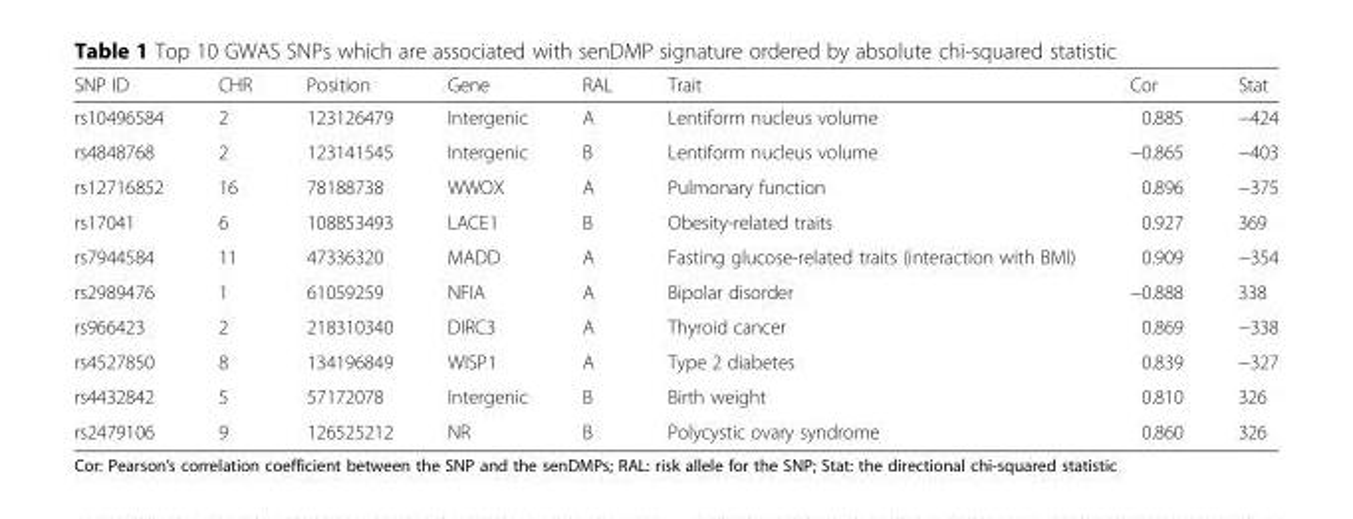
<table><thead><tr><td>SNP ID</td><td>CHR</td><td>Position</td><td>Gene</td><td>RAL</td><td>Trait</td><td>Cor</td><td>Stat</td></tr></thead><tbody><tr><td>rs10496584</td><td>2</td><td>123126479</td><td>Intergenic</td><td>A</td><td>Lentiform nucleus volume</td><td>0.885</td><td>−424</td></tr><tr><td>rs4848768</td><td>2</td><td>123141545</td><td>Intergenic</td><td>B</td><td>Lentiform nucleus volume</td><td>−0.865</td><td>−403</td></tr><tr><td>rs12716852</td><td>16</td><td>78188738</td><td>WWOX</td><td>A</td><td>Pulmonary function</td><td>0.896</td><td>−375</td></tr><tr><td>rs17041</td><td>6</td><td>108853493</td><td>LACE1</td><td>B</td><td>Obesity-related traits</td><td>0.927</td><td>369</td></tr><tr><td>rs7944584</td><td>11</td><td>47336320</td><td>MADD</td><td>A</td><td>Fasting glucose-related traits (interaction with BMI)</td><td>0.909</td><td>−354</td></tr><tr><td>rs2989476</td><td>1</td><td>61059259</td><td>NFIA</td><td>A</td><td>Bipolar disorder</td><td>−0.888</td><td>338</td></tr><tr><td>rs966423</td><td>2</td><td>218310340</td><td>DIRC3</td><td>A</td><td>Thyroid cancer</td><td>0.869</td><td>−338</td></tr><tr><td>rs4527850</td><td>8</td><td>134196849</td><td>WISP1</td><td>A</td><td>Type 2 diabetes</td><td>0.839</td><td>−327</td></tr><tr><td>rs4432842</td><td>5</td><td>57172078</td><td>Intergenic</td><td>B</td><td>Birth weight</td><td>0.810</td><td>326</td></tr><tr><td>rs2479106</td><td>9</td><td>126525212</td><td>NR</td><td>B</td><td>Polycystic ovary syndrome</td><td>0.860</td><td>326</td></tr></tbody></table>